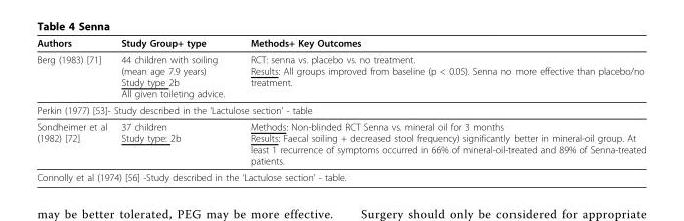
<table><thead><tr><td>Authors</td><td>Study Group+ type</td><td>Methods+ Key Outcomes</td></tr></thead><tbody><tr><td>Berg (1983) [71]</td><td>44 children with soiling (mean age 7.9 years) Study type 2b All given toileting advice.</td><td>RCT: senna vs. placebo vs. no treatment. Results: All groups improved from baseline (p &lt; 0.05). Senna no more effective than placebo/no treatment.</td></tr><tr><td colspan="3">Perkin (1977) [53]- Study described in the ‘Lactulose section’ - table</td></tr><tr><td>Sondheimer et al (1982) [72]</td><td>37 children Study type: 2b</td><td>Methods: Non-blinded RCT Senna vs. mineral oil for 3 months Results: Faecal soiling + decreased stool frequency) significantly better in mineral-oil group. At least 1 recurrence of symptoms occurred in 66% of mineral-oil-treated and 89% of Senna-treated patients.</td></tr><tr><td colspan="3">Connolly et al (1974) [56] -Study described in the ‘Lactulose section’ - table.</td></tr></tbody></table>